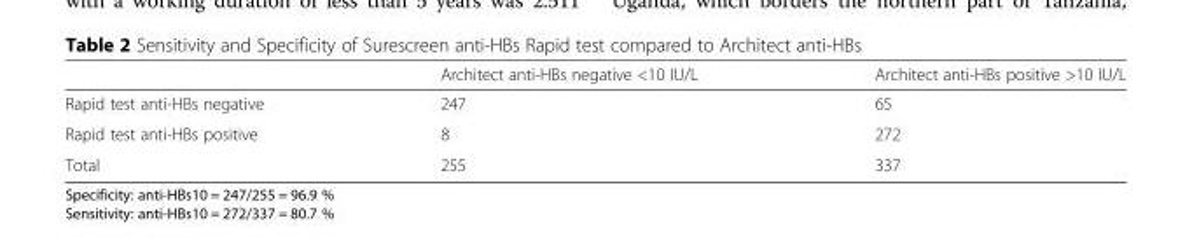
<table><thead><tr><td></td><td>Architect anti-HBs negative &lt;10 IU/L</td><td>Architect anti-HBs positive &gt;10 IU/L</td></tr></thead><tbody><tr><td>Rapid test anti-HBs negative</td><td>247</td><td>65</td></tr><tr><td>Rapid test anti-HBs positive</td><td>8</td><td>272</td></tr><tr><td>Total</td><td>255</td><td>337</td></tr></tbody></table>